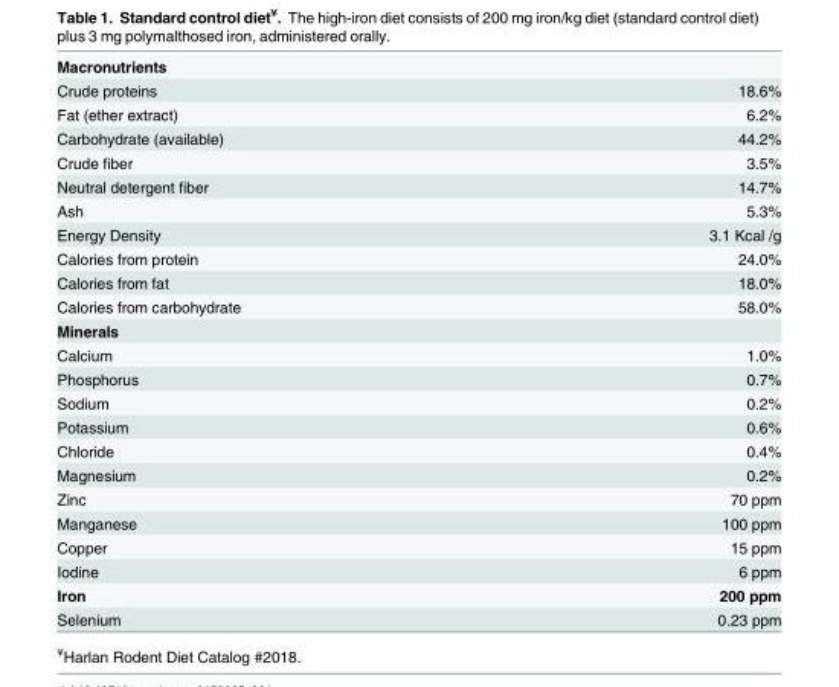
<table><tbody><tr><td colspan="2">Macronutrients</td></tr><tr><td>Crude proteins</td><td>18.6%</td></tr><tr><td>Fat (ether extract)</td><td>6.2%</td></tr><tr><td>Carbohydrate (available)</td><td>44.2%</td></tr><tr><td>Crude fiber</td><td>3.5%</td></tr><tr><td>Neutral detergent fiber</td><td>14.7%</td></tr><tr><td>Ash</td><td>5.3%</td></tr><tr><td>Energy Density</td><td>3.1 Kcal /g</td></tr><tr><td>Calories from protein</td><td>24.0%</td></tr><tr><td>Calories from fat</td><td>18.0%</td></tr><tr><td>Calories from carbohydrate</td><td>58.0%</td></tr><tr><td colspan="2">Minerals</td></tr><tr><td>Calcium</td><td>1.0%</td></tr><tr><td>Phosphorus</td><td>0.7%</td></tr><tr><td>Sodium</td><td>0.2%</td></tr><tr><td>Potassium</td><td>0.6%</td></tr><tr><td>Chloride</td><td>0.4%</td></tr><tr><td>Magnesium</td><td>0.2%</td></tr><tr><td>Zinc</td><td>70 ppm</td></tr><tr><td>Manganese</td><td>100 ppm</td></tr><tr><td>Copper</td><td>15 ppm</td></tr><tr><td>Iodine</td><td>6 ppm</td></tr><tr><td>Iron</td><td>200 ppm</td></tr><tr><td>Selenium</td><td>0.23 ppm</td></tr></tbody></table>